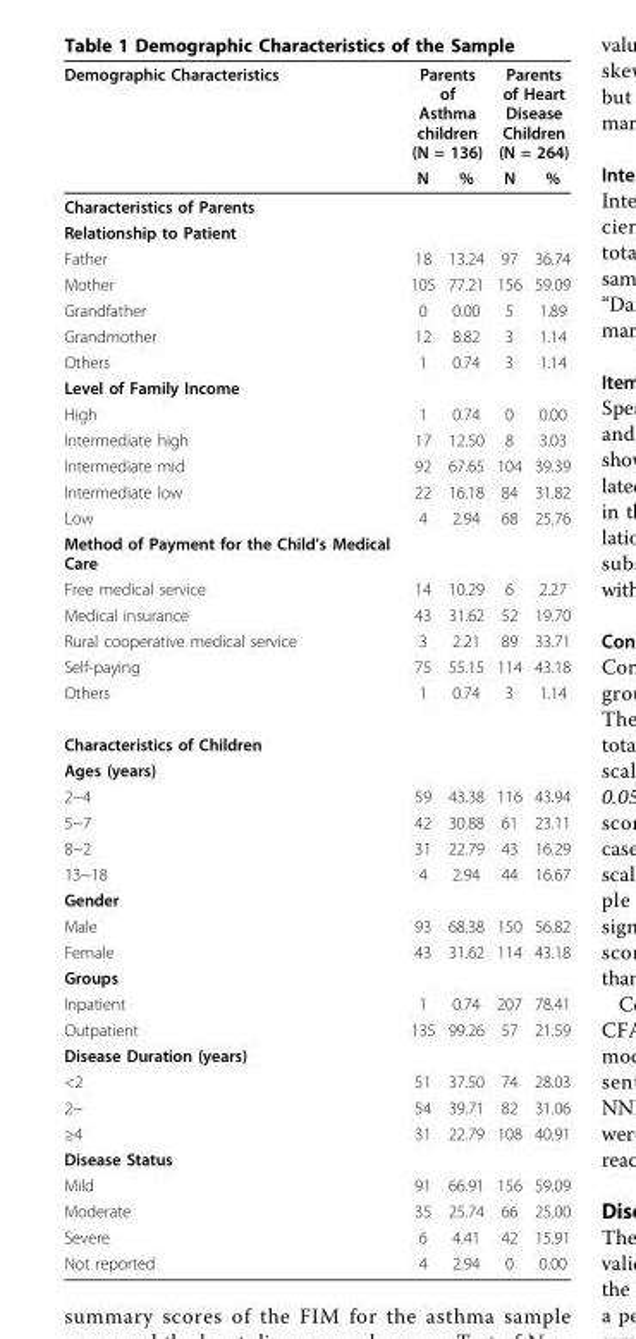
<table><thead><tr><td rowspan="2">Demographic Characteristics</td><td colspan="2">Parents of Asthma children (N = 136)</td><td colspan="2">Parents of Heart Disease Children (N = 264)</td></tr><tr><td>N</td><td>%</td><td>N</td><td>%</td></tr></thead><tbody><tr><td colspan="5">Characteristics of Parents</td></tr><tr><td colspan="5">Relationship to Patient</td></tr><tr><td>Father</td><td>18</td><td>13.24</td><td>97</td><td>36.74</td></tr><tr><td>Mother</td><td>105</td><td>77.21</td><td>156</td><td>59.09</td></tr><tr><td>Grandfather</td><td>0</td><td>0.00</td><td>5</td><td>1.89</td></tr><tr><td>Grandmother</td><td>12</td><td>8.82</td><td>3</td><td>1.14</td></tr><tr><td>Others</td><td>1</td><td>0.74</td><td>3</td><td>1.14</td></tr><tr><td colspan="5">Level of Family Income</td></tr><tr><td>High</td><td>1</td><td>0.74</td><td>0</td><td>0.00</td></tr><tr><td>Intermediate high</td><td>17</td><td>12.50</td><td>8</td><td>3.03</td></tr><tr><td>Intermediate mid</td><td>92</td><td>67.65</td><td>104</td><td>39.39</td></tr><tr><td>Intermediate low</td><td>22</td><td>16.18</td><td>84</td><td>31.82</td></tr><tr><td>Low</td><td>4</td><td>2.94</td><td>68</td><td>25.76</td></tr><tr><td colspan="5">Method of Payment for the Child’s Medical Care</td></tr><tr><td>Free medical service</td><td>14</td><td>10.29</td><td>6</td><td>2.27</td></tr><tr><td>Medical insurance</td><td>43</td><td>31.62</td><td>52</td><td>19.70</td></tr><tr><td>Rural cooperative medical service</td><td>3</td><td>2.21</td><td>89</td><td>33.71</td></tr><tr><td>Self-paying</td><td>75</td><td>55.15</td><td>114</td><td>43.18</td></tr><tr><td>Others</td><td>1</td><td>0.74</td><td>3</td><td>1.14</td></tr><tr><td colspan="5">Characteristics of Children</td></tr><tr><td colspan="5">Ages (years)</td></tr><tr><td>2~4</td><td>59</td><td>43.38</td><td>116</td><td>43.94</td></tr><tr><td>5~7</td><td>42</td><td>30.88</td><td>61</td><td>23.11</td></tr><tr><td>8~2</td><td>31</td><td>22.79</td><td>43</td><td>16.29</td></tr><tr><td>13~18</td><td>4</td><td>2.94</td><td>44</td><td>16.67</td></tr><tr><td colspan="5">Gender</td></tr><tr><td>Male</td><td>93</td><td>68.38</td><td>150</td><td>56.82</td></tr><tr><td>Female</td><td>43</td><td>31.62</td><td>114</td><td>43.18</td></tr><tr><td colspan="5">Groups</td></tr><tr><td>Inpatient</td><td>1</td><td>0.74</td><td>207</td><td>78.41</td></tr><tr><td>Outpatient</td><td>135</td><td>99.26</td><td>57</td><td>21.59</td></tr><tr><td colspan="5">Disease Duration (years)</td></tr><tr><td>&lt;2</td><td>51</td><td>37.50</td><td>74</td><td>28.03</td></tr><tr><td>2~</td><td>54</td><td>39.71</td><td>82</td><td>31.06</td></tr><tr><td>≥4</td><td>31</td><td>22.79</td><td>108</td><td>40.91</td></tr><tr><td colspan="5">Disease Status</td></tr><tr><td>Mild</td><td>91</td><td>66.91</td><td>156</td><td>59.09</td></tr><tr><td>Moderate</td><td>35</td><td>25.74</td><td>66</td><td>25.00</td></tr><tr><td>Severe</td><td>6</td><td>4.41</td><td>42</td><td>15.91</td></tr><tr><td>Not reported</td><td>4</td><td>2.94</td><td>0</td><td>0.00</td></tr></tbody></table>